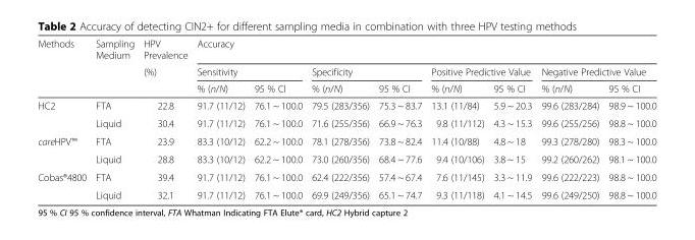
<table><thead><tr><td rowspan="3">Methods</td><td rowspan="3">Sampling Medium</td><td rowspan="3">HPV Prevalence (%)</td><td colspan="8">Accuracy</td></tr><tr><td colspan="2">Sensitivity</td><td colspan="2">Specificity</td><td colspan="2">Positive Predictive Value</td><td colspan="2">Negative Predictive Value</td></tr><tr><td>% (n/N)</td><td>95 % CI</td><td>% (n/N)</td><td>95 % CI</td><td>% (n/N)</td><td>95 % CI</td><td>% (n/N)</td><td>95 % CI</td></tr></thead><tbody><tr><td rowspan="2">HC2</td><td>FTA</td><td>22.8</td><td>91.7 (11/12)</td><td>76.1 ~ 100.0</td><td>79.5 (283/356)</td><td>75.3 ~ 83.7</td><td>13.1 (11/84)</td><td>5.9 ~ 20.3</td><td>99.6 (283/284)</td><td>98.9 ~ 100.0</td></tr><tr><td>Liquid</td><td>30.4</td><td>91.7 (11/12)</td><td>76.1 ~ 100.0</td><td>71.6 (255/356)</td><td>66.9 ~ 76.3</td><td>9.8 (11/112)</td><td>4.3 ~ 15.3</td><td>99.6 (255/256)</td><td>98.8 ~ 100.0</td></tr><tr><td rowspan="2">careHPV™</td><td>FTA</td><td>23.9</td><td>83.3 (10/12)</td><td>62.2 ~ 100.0</td><td>78.1 (278/356)</td><td>73.8 ~ 82.4</td><td>11.4 (10/88)</td><td>4.8 ~ 18</td><td>99.3 (278/280)</td><td>98.3 ~ 100.0</td></tr><tr><td>Liquid</td><td>28.8</td><td>83.3 (10/12)</td><td>62.2 ~ 100.0</td><td>73.0 (260/356)</td><td>68.4 ~ 77.6</td><td>9.4 (10/106)</td><td>3.8 ~ 15</td><td>99.2 (260/262)</td><td>98.1 ~ 100.0</td></tr><tr><td rowspan="2">Cobas®4800</td><td>FTA</td><td>39.4</td><td>91.7 (11/12)</td><td>76.1 ~ 100.0</td><td>62.4 (222/356)</td><td>57.4 ~ 67.4</td><td>7.6 (11/145)</td><td>3.3 ~ 11.9</td><td>99.6 (222/223)</td><td>98.8 ~ 100.0</td></tr><tr><td>Liquid</td><td>32.1</td><td>91.7 (11/12)</td><td>76.1 ~ 100.0</td><td>69.9 (249/356)</td><td>65.1 ~ 74.7</td><td>9.3 (11/118)</td><td>4.1 ~ 14.5</td><td>99.6 (249/250)</td><td>98.8 ~ 100.0</td></tr></tbody></table>